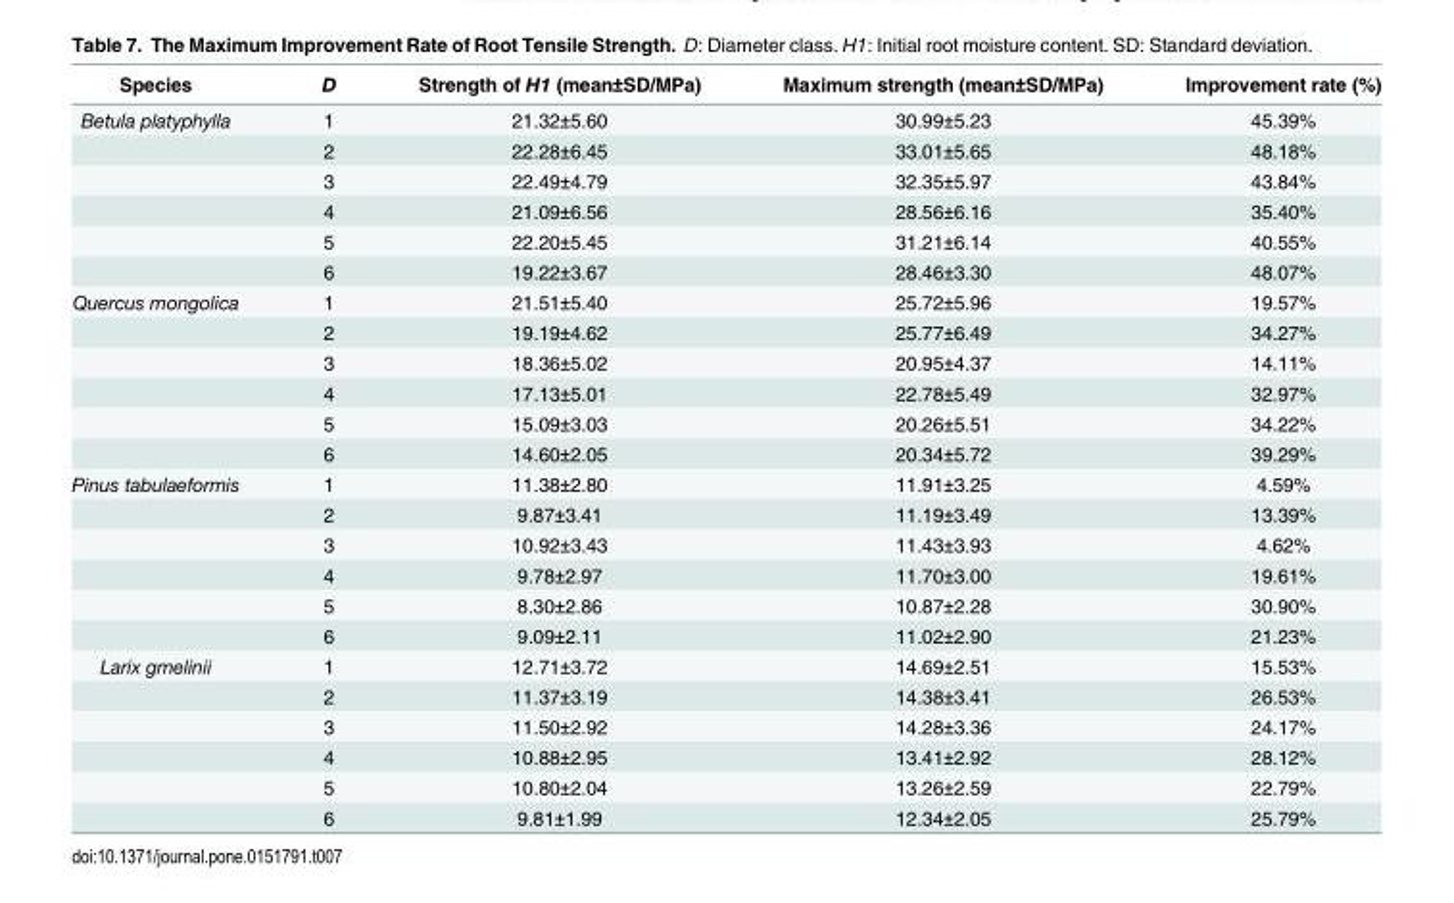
<table><thead><tr><td>Species</td><td>D</td><td>Strength of H1 (mean±SD/MPa)</td><td>Maximum strength (mean±SD/MPa)</td><td>Improvement rate (%)</td></tr></thead><tbody><tr><td rowspan="6">Betula platyphylla</td><td>1</td><td>21.32±5.60</td><td>30.99±5.23</td><td>45.39%</td></tr><tr><td>2</td><td>22.28±6.45</td><td>33.01±5.65</td><td>48.18%</td></tr><tr><td>3</td><td>22.49±4.79</td><td>32.35±5.97</td><td>43.84%</td></tr><tr><td>4</td><td>21.09±6.56</td><td>28.56±6.16</td><td>35.40%</td></tr><tr><td>5</td><td>22.20±5.45</td><td>31.21±6.14</td><td>40.55%</td></tr><tr><td>6</td><td>19.22±3.67</td><td>28.46±3.30</td><td>48.07%</td></tr><tr><td rowspan="6">Quercus mongolica</td><td>1</td><td>21.51±5.40</td><td>25.72±5.96</td><td>19.57%</td></tr><tr><td>2</td><td>19.19±4.62</td><td>25.77±6.49</td><td>34.27%</td></tr><tr><td>3</td><td>18.36±5.02</td><td>20.95±4.37</td><td>14.11%</td></tr><tr><td>4</td><td>17.13±5.01</td><td>22.78±5.49</td><td>32.97%</td></tr><tr><td>5</td><td>15.09±3.03</td><td>20.26±5.51</td><td>34.22%</td></tr><tr><td>6</td><td>14.60±2.05</td><td>20.34±5.72</td><td>39.29%</td></tr><tr><td rowspan="6">Pinus tabulaeformis</td><td>1</td><td>11.38±2.80</td><td>11.91±3.25</td><td>4.59%</td></tr><tr><td>2</td><td>9.87±3.41</td><td>11.19±3.49</td><td>13.39%</td></tr><tr><td>3</td><td>10.92±3.43</td><td>11.43±3.93</td><td>4.62%</td></tr><tr><td>4</td><td>9.78±2.97</td><td>11.70±3.00</td><td>19.61%</td></tr><tr><td>5</td><td>8.30±2.86</td><td>10.87±2.28</td><td>30.90%</td></tr><tr><td>6</td><td>9.09±2.11</td><td>11.02±2.90</td><td>21.23%</td></tr><tr><td rowspan="6">Larix gmelinii</td><td>1</td><td>12.71±3.72</td><td>14.69±2.51</td><td>15.53%</td></tr><tr><td>2</td><td>11.37±3.19</td><td>14.38±3.41</td><td>26.53%</td></tr><tr><td>3</td><td>11.50±2.92</td><td>14.28±3.36</td><td>24.17%</td></tr><tr><td>4</td><td>10.88±2.95</td><td>13.41±2.92</td><td>28.12%</td></tr><tr><td>5</td><td>10.80±2.04</td><td>13.26±2.59</td><td>22.79%</td></tr><tr><td>6</td><td>9.81±1.99</td><td>12.34±2.05</td><td>25.79%</td></tr></tbody></table>